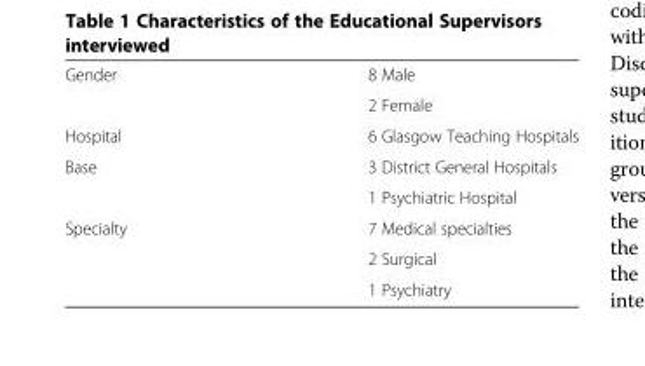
<table><tbody><tr><td rowspan="2">Gender</td><td>8 Male</td></tr><tr><td>2 Female</td></tr><tr><td>Hospital</td><td>6 Glasgow Teaching Hospitals</td></tr><tr><td rowspan="2">Base</td><td>3 District General Hospitals</td></tr><tr><td>1 Psychiatric Hospital</td></tr><tr><td rowspan="3">Specialty</td><td>7 Medical specialties</td></tr><tr><td>2 Surgical</td></tr><tr><td>1 Psychiatry</td></tr></tbody></table>